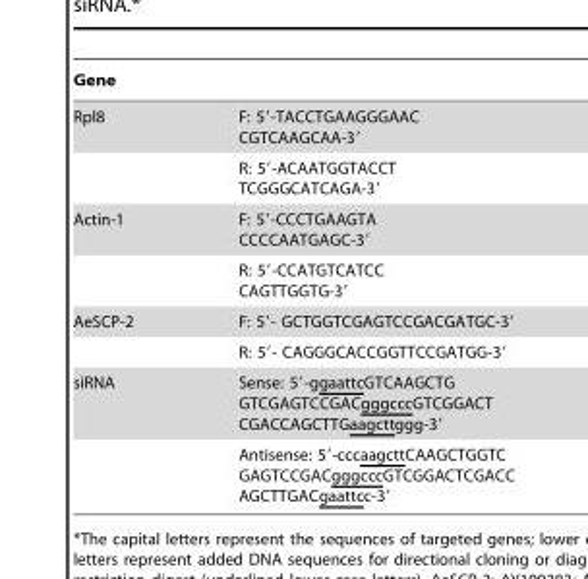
<table><thead><tr><td>Gene</td><td></td></tr></thead><tbody><tr><td rowspan="2">Rpl8</td><td>F: 5′-TACCTGAAGGGAAC CGTCAAGCAA-3′</td></tr><tr><td>R: 5′-ACAATGGTACCT TCGGGCATCAGA-3′</td></tr><tr><td rowspan="2">Actin-1</td><td>F: 5′-CCCTGAAGTA CCCCAATGAGC-3′</td></tr><tr><td>R: 5′-CCATGTCATCC CAGTTGGTG-3′</td></tr><tr><td rowspan="2">AeSCP-2</td><td>F: 5′- GCTGGTCGAGTCCGACGATGC-3′</td></tr><tr><td>R: 5′- CAGGGCACCGGTTCCGATGG-3′</td></tr><tr><td rowspan="2">siRNA</td><td>Sense: 5′-ggaattcGTCAAGCTG GTCGAGTCCGACgggcccGTCGGACT CGACCAGCTTGaagcttggg-3′</td></tr><tr><td>Antisense: 5′-cccaagcttCAAGCTGGTC GAGTCCGACgggcccGTCGGACTCGACC AGCTTGACgaattcc-3′</td></tr></tbody></table>